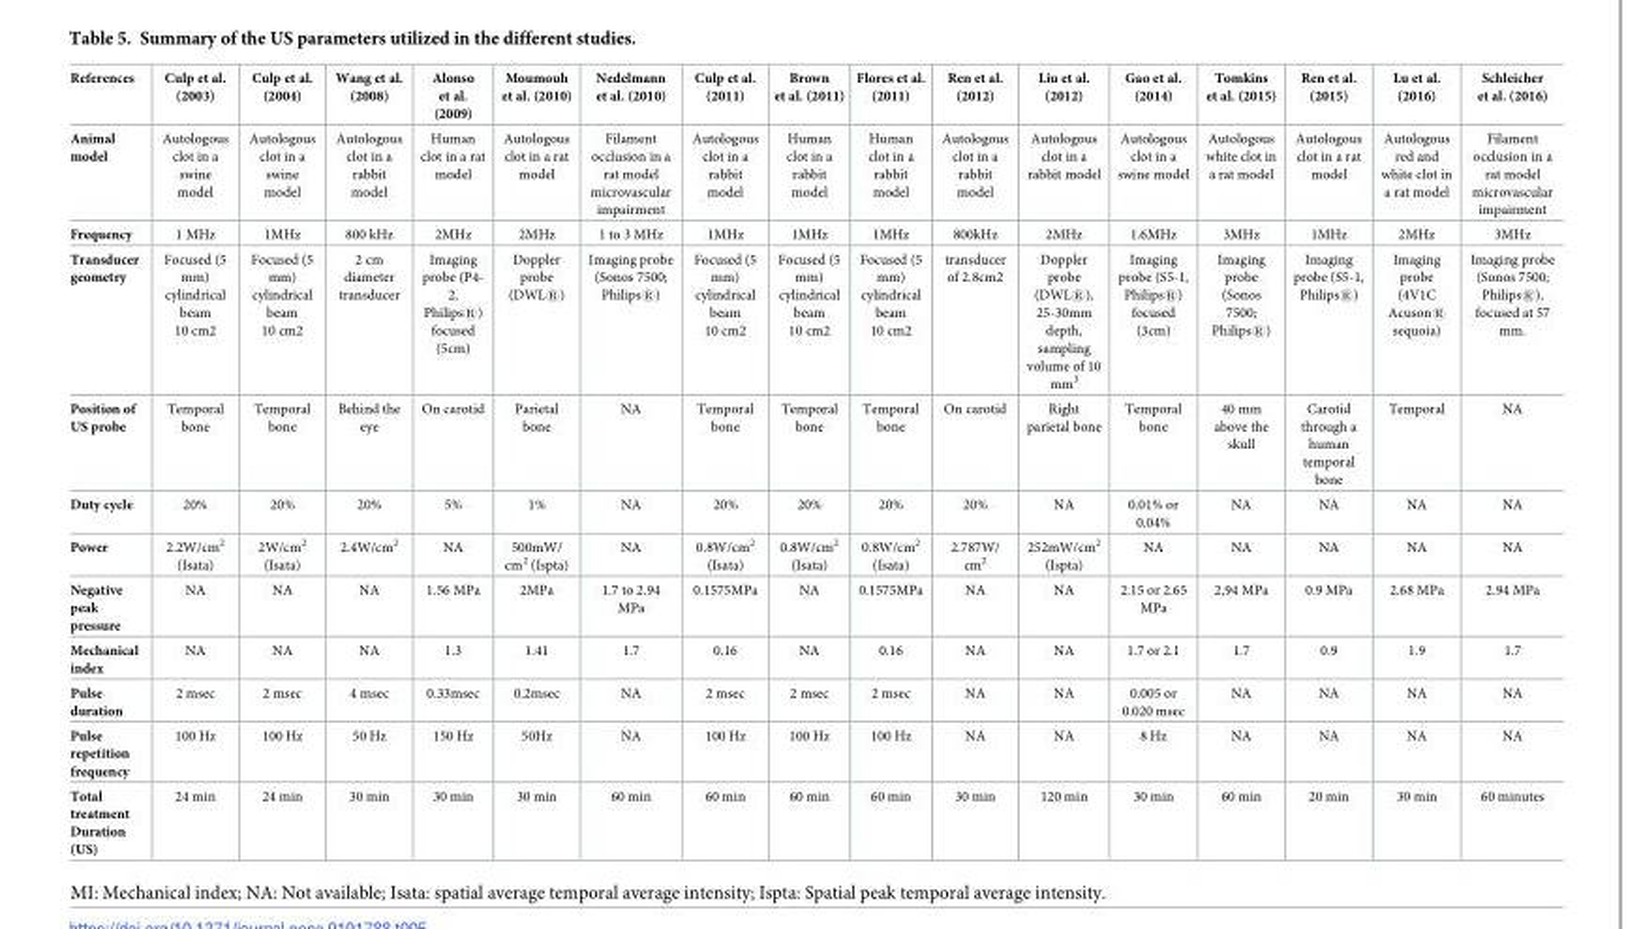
<table><thead><tr><td>References</td><td>Culp et al. (2003)</td><td>Culp et al. (2004)</td><td>Wang et al. (2008)</td><td>Alonso et al. (2009)</td><td>Moumouh et al. (2010)</td><td>Nedelmann et al. (2010)</td><td>Culp et al. (2011)</td><td>Brown et al. (2011)</td><td>Flores et al. (2011)</td><td>Ren et al. (2012)</td><td>Liu et al. (2012)</td><td>Gao et al. (2014)</td><td>Tomkins et al. (2015)</td><td>Ren et al. (2015)</td><td>Lu et al. (2016)</td><td>Schleicher et al. (2016)</td></tr></thead><tbody><tr><td>Animal model</td><td>Autologous clot in a swine model</td><td>Autologous clot in a swine model</td><td>Autologous clot in a rabbit model</td><td>Human clot in a rat model</td><td>Autologous clot in a rat model</td><td>Filament occlusion in a rat model microvascular impairment</td><td>Autologous clot in a rabbit model</td><td>Human clot in a rabbit model</td><td>Human clot in a rabbit model</td><td>Autologous clot in a rabbit model</td><td>Autologous clot in a rabbit model</td><td>Autologous clot in a swine model</td><td>Autologous white clot in a rat model</td><td>Autologous clot in a rat model</td><td>Autologous red and white clot in a rat model</td><td>Filament occlusion in a rat model microvascular impairment</td></tr><tr><td>Frequency</td><td>1 MHz</td><td>1MHz</td><td>800 kHz</td><td>2MHz</td><td>2MHz</td><td>1 to 3 MHz</td><td>1MHz</td><td>1MHz</td><td>1MHz</td><td>800kHz</td><td>2MHz</td><td>1.6MHz</td><td>3MHz</td><td>1MHz</td><td>2MHz</td><td>3MHz</td></tr><tr><td>Transducer geometry</td><td>Focused (5 mm) cylindrical beam 10 cm2</td><td>Focused (5 mm) cylindrical beam 10 cm2</td><td>2 cm diameter transducer</td><td>Imaging probe (P4- 2, Philips®) focused (5cm)</td><td>Doppler probe (DWL®)</td><td>Imaging probe (Sonos 7500; Philips®)</td><td>Focused (5 mm) cylindrical beam 10 cm2</td><td>Focused (5 mm) cylindrical beam 10 cm2</td><td>Focused (5 mm) cylindrical beam 10 cm2</td><td>transducer of 2.8cm2</td><td>Doppler probe (DWL®), 25-30mm depth, sampling volume of 10 mm<sup>3</sup></td><td>Imaging probe (S5-1, Philips®) focused (3cm)</td><td>Imaging probe (Sonos 7500; Philips®)</td><td>Imaging probe (S5-1, Philips®)</td><td>Imaging probe (4V1C Acuson® sequoia)</td><td>Imaging probe (Sonos 7500; Philips®), focused at 57 mm.</td></tr><tr><td>Position of US probe</td><td>Temporal bone</td><td>Temporal bone</td><td>Behind the eye</td><td>On carotid</td><td>Parietal bone</td><td>NA</td><td>Temporal bone</td><td>Temporal bone</td><td>Temporal bone</td><td>On carotid</td><td>Right parietal bone</td><td>Temporal bone</td><td>40 mm above the skull</td><td>Carotid through a human temporal bone</td><td>Temporal</td><td>NA</td></tr><tr><td>Duty cycle</td><td>20%</td><td>20%</td><td>20%</td><td>5%</td><td>1%</td><td>NA</td><td>20%</td><td>20%</td><td>20%</td><td>20%</td><td>NA</td><td>0.01% or 0.04%</td><td>NA</td><td>NA</td><td>NA</td><td>NA</td></tr><tr><td>Power</td><td>2.2W/cm<sup>2</sup> (Isata)</td><td>2W/cm<sup>2</sup> (Isata)</td><td>2.4W/cm<sup>2</sup></td><td>NA</td><td>500mW/ cm<sup>2</sup> (Ispta)</td><td>NA</td><td>0.8W/cm<sup>2</sup> (Isata)</td><td>0.8W/cm<sup>2</sup> (Isata)</td><td>0.8W/cm<sup>2</sup> (Isata)</td><td>2.787W/ cm<sup>2</sup></td><td>252mW/cm<sup>2</sup> (Ispta)</td><td>NA</td><td>NA</td><td>NA</td><td>NA</td><td>NA</td></tr><tr><td>Negative peak pressure</td><td>NA</td><td>NA</td><td>NA</td><td>1.56 MPa</td><td>2MPa</td><td>1.7 to 2.94 MPa</td><td>0.1575MPa</td><td>NA</td><td>0.1575MPa</td><td>NA</td><td>NA</td><td>2.15 or 2.65 MPa</td><td>2,94 MPa</td><td>0.9 MPa</td><td>2.68 MPa</td><td>2.94 MPa</td></tr><tr><td>Mechanical index</td><td>NA</td><td>NA</td><td>NA</td><td>1.3</td><td>1.41</td><td>1.7</td><td>0.16</td><td>NA</td><td>0.16</td><td>NA</td><td>NA</td><td>1.7 or 2.1</td><td>1.7</td><td>0.9</td><td>1.9</td><td>1.7</td></tr><tr><td>Pulse duration</td><td>2 msec</td><td>2 msec</td><td>4 msec</td><td>0.33msec</td><td>0.2msec</td><td>NA</td><td>2 msec</td><td>2 msec</td><td>2 msec</td><td>NA</td><td>NA</td><td>0.005 or 0.020 msec</td><td>NA</td><td>NA</td><td>NA</td><td>NA</td></tr><tr><td>Pulse repetition frequency</td><td>100 Hz</td><td>100 Hz</td><td>50 Hz</td><td>150 Hz</td><td>50Hz</td><td>NA</td><td>100 Hz</td><td>100 Hz</td><td>100 Hz</td><td>NA</td><td>NA</td><td>8 Hz</td><td>NA</td><td>NA</td><td>NA</td><td>NA</td></tr><tr><td>Total treatment Duration (US)</td><td>24 min</td><td>24 min</td><td>30 min</td><td>30 min</td><td>30 min</td><td>60 min</td><td>60 min</td><td>60 min</td><td>60 min</td><td>30 min</td><td>120 min</td><td>30 min</td><td>60 min</td><td>20 min</td><td>30 min</td><td>60 minutes</td></tr></tbody></table>